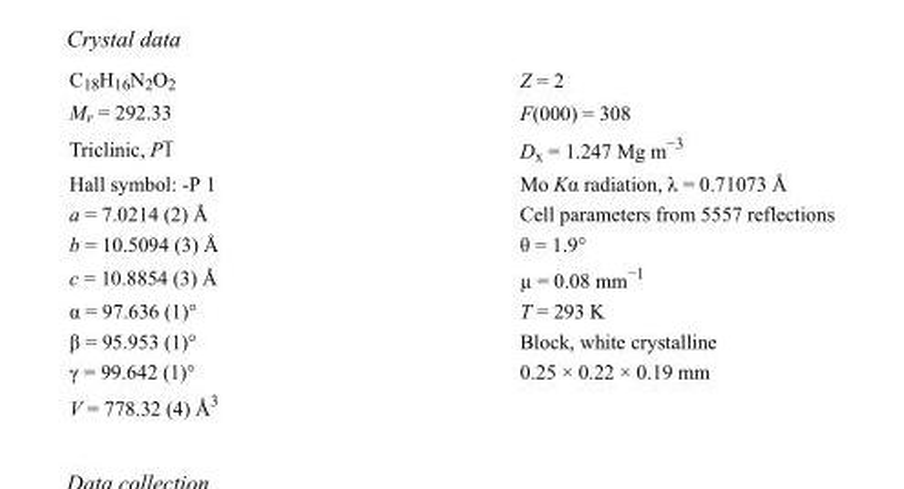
<table><tbody><tr><td>C<sub>18</sub>H<sub>16</sub>N<sub>2</sub>O<sub>2</sub></td><td>Z = 2</td></tr><tr><td>M<sub>r</sub> = 292.33</td><td>F(000) = 308</td></tr><tr><td>Triclinic, P1</td><td>D<sub>x</sub> = 1.247 Mg m<sup>−3</sup></td></tr><tr><td>Hall symbol: -P 1</td><td>Mo Kα radiation, λ = 0.71073 Å</td></tr><tr><td>a = 7.0214 (2) Å</td><td>Cell parameters from 5557 reflections</td></tr><tr><td>b = 10.5094 (3) Å</td><td>θ = 1.9°</td></tr><tr><td>c = 10.8854 (3) Å</td><td>µ = 0.08 mm<sup>−1</sup></td></tr><tr><td>α = 97.636 (1)°</td><td>T = 293 K</td></tr><tr><td>β = 95.953 (1)°</td><td>Block, white crystalline</td></tr><tr><td>γ = 99.642 (1)°</td><td>0.25 × 0.22 × 0.19 mm</td></tr><tr><td>V = 778.32 (4) Å<sup>3</sup></td><td></td></tr></tbody></table>